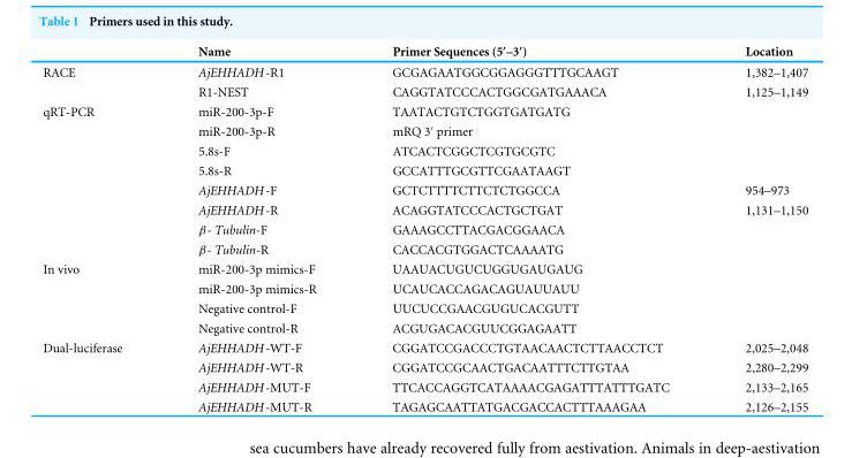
<table><thead><tr><td></td><td>Name</td><td>Primer Sequences (5′–3′)</td><td>Location</td></tr></thead><tbody><tr><td rowspan="2">RACE</td><td>AjEHHADH-R1</td><td>GCGAGAATGGCGGAGGGTTTGCAAGT</td><td>1,382–1,407</td></tr><tr><td>R1-NEST</td><td>CAGGTATCCCACTGGCGATGAAACA</td><td>1,125–1,149</td></tr><tr><td rowspan="8">qRT-PCR</td><td>miR-200-3p-F</td><td>TAATACTGTCTGGTGATGATG</td><td></td></tr><tr><td>miR-200-3p-R</td><td>mRQ 3′ primer</td><td></td></tr><tr><td>5.8s-F</td><td>ATCACTCGGCTCGTGCGTC</td><td></td></tr><tr><td>5.8s-R</td><td>GCCATTTGCGTTCGAATAAGT</td><td></td></tr><tr><td>AjEHHADH-F</td><td>GCTCTTTTCTTCTCTGGCCA</td><td>954–973</td></tr><tr><td>AjEHHADH-R</td><td>ACAGGTATCCCACTGCTGAT</td><td>1,131–1,150</td></tr><tr><td>β- Tubulin-F</td><td>GAAAGCCTTACGACGGAACA</td><td></td></tr><tr><td>β- Tubulin-R</td><td>CACCACGTGGACTCAAAATG</td><td></td></tr><tr><td rowspan="4">In vivo</td><td>miR-200-3p mimics-F</td><td>UAAUACUGUCUGGUGAUGAUG</td><td></td></tr><tr><td>miR-200-3p mimics-R</td><td>UCAUCACCAGACAGUAUUAUU</td><td></td></tr><tr><td>Negative control-F</td><td>UUCUCCGAACGUGUCACGUTT</td><td></td></tr><tr><td>Negative control-R</td><td>ACGUGACACGUUCGGAGAATT</td><td></td></tr><tr><td rowspan="4">Dual-luciferase</td><td>AjEHHADH-WT-F</td><td>CGGATCCGACCCTGTAACAACTCTTAACCTCT</td><td>2,025–2,048</td></tr><tr><td>AjEHHADH-WT-R</td><td>CGGATCCGCAACTGACAATTTCTTGTAA</td><td>2,280–2,299</td></tr><tr><td>AjEHHADH-MUT-F</td><td>TTCACCAGGTCATAAAACGAGATTTATTTGATC</td><td>2,133–2,165</td></tr><tr><td>AjEHHADH-MUT-R</td><td>TAGAGCAATTATGACGACCACTTTAAAGAA</td><td>2,126–2,155</td></tr></tbody></table>